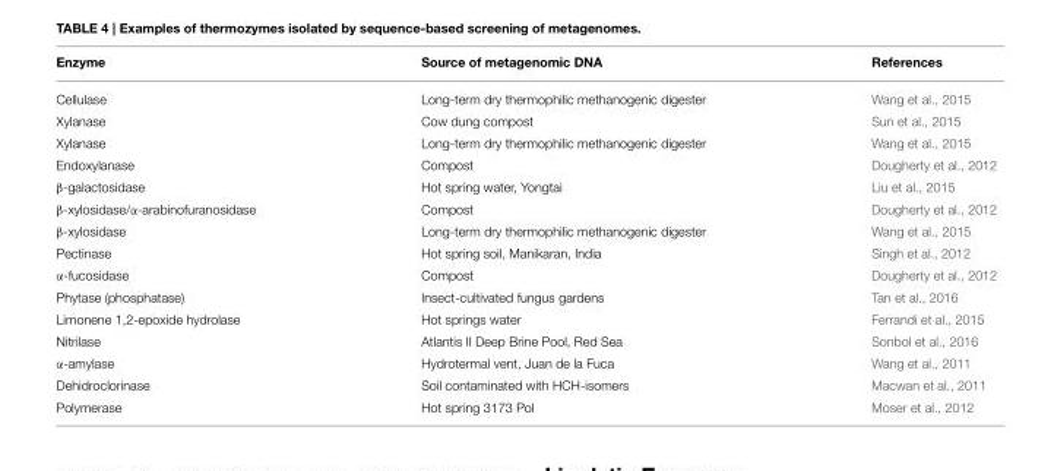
<table><thead><tr><td>Enzyme</td><td>Source of metagenomic DNA</td><td>References</td></tr></thead><tbody><tr><td>Cellulase</td><td>Long-term dry thermophilic methanogenic digester</td><td>Wang et al., 2015</td></tr><tr><td>Xylanase</td><td>Cow dung compost</td><td>Sun et al., 2015</td></tr><tr><td>Xylanase</td><td>Long-term dry thermophilic methanogenic digester</td><td>Wang et al., 2015</td></tr><tr><td>Endoxylanase</td><td>Compost</td><td>Dougherty et al., 2012</td></tr><tr><td>β-galactosidase</td><td>Hot spring water, Yongtai</td><td>Liu et al., 2015</td></tr><tr><td>β-xylosidase/α-arabinofuranosidase</td><td>Compost</td><td>Dougherty et al., 2012</td></tr><tr><td>β-xylosidase</td><td>Long-term dry thermophilic methanogenic digester</td><td>Wang et al., 2015</td></tr><tr><td>Pectinase</td><td>Hot spring soil, Manikaran, India</td><td>Singh et al., 2012</td></tr><tr><td>α-fucosidase</td><td>Compost</td><td>Dougherty et al., 2012</td></tr><tr><td>Phytase (phosphatase)</td><td>Insect-cultivated fungus gardens</td><td>Tan et al., 2016</td></tr><tr><td>Limonene 1,2-epoxide hydrolase</td><td>Hot springs water</td><td>Ferrandi et al., 2015</td></tr><tr><td>Nitrilase</td><td>Atlantis II Deep Brine Pool, Red Sea</td><td>Sonbol et al., 2016</td></tr><tr><td>α-amylase</td><td>Hydrotermal vent, Juan de la Fuca</td><td>Wang et al., 2011</td></tr><tr><td>Dehidroclorinase</td><td>Soil contaminated with HCH-isomers</td><td>Macwan et al., 2011</td></tr><tr><td>Polymerase</td><td>Hot spring 3173 Pol</td><td>Moser et al., 2012</td></tr></tbody></table>